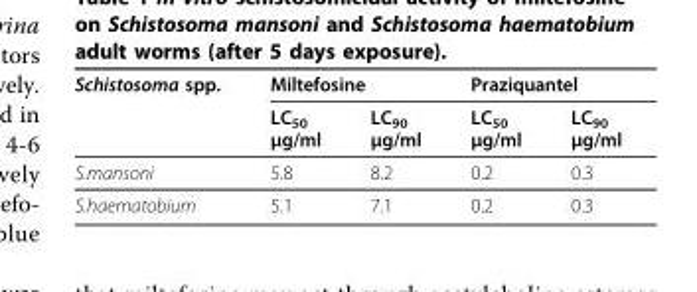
<table><thead><tr><td rowspan="2">Schistosoma spp.</td><td colspan="2">Miltefosine</td><td colspan="2">Praziquantel</td></tr><tr><td>LC<sub>50</sub> μg/ml</td><td>LC<sub>90</sub> μg/ml</td><td>LC<sub>50</sub> μg/ml</td><td>LC<sub>90</sub> μg/ml</td></tr></thead><tbody><tr><td>S.mansoni</td><td>5.8</td><td>8.2</td><td>0.2</td><td>0.3</td></tr><tr><td>S.haematobium</td><td>5.1</td><td>7.1</td><td>0.2</td><td>0.3</td></tr></tbody></table>